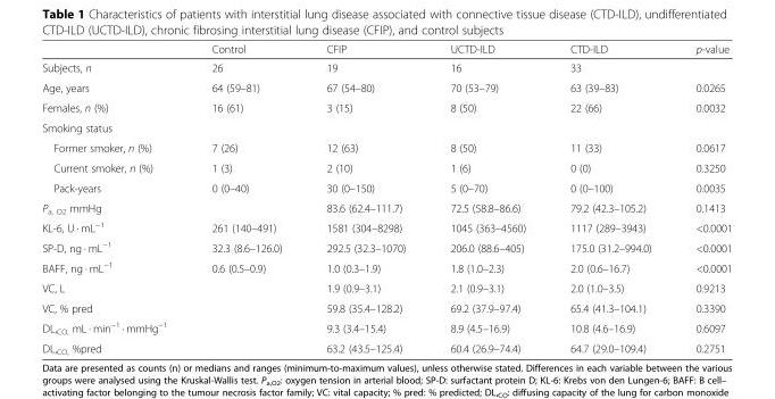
<table><thead><tr><td></td><td>Control</td><td>CFIP</td><td>UCTD-ILD</td><td>CTD-ILD</td><td>p-value</td></tr></thead><tbody><tr><td>Subjects, n</td><td>26</td><td>19</td><td>16</td><td>33</td><td></td></tr><tr><td>Age, years</td><td>64 (59–81)</td><td>67 (54–80)</td><td>70 (53–79)</td><td>63 (39–83)</td><td>0.0265</td></tr><tr><td>Females, n (%)</td><td>16 (61)</td><td>3 (15)</td><td>8 (50)</td><td>22 (66)</td><td>0.0032</td></tr><tr><td colspan="6">Smoking status</td></tr><tr><td>Former smoker, n (%)</td><td>7 (26)</td><td>12 (63)</td><td>8 (50)</td><td>11 (33)</td><td>0.0617</td></tr><tr><td>Current smoker, n (%)</td><td>1 (3)</td><td>2 (10)</td><td>1 (6)</td><td>0 (0)</td><td>0.3250</td></tr><tr><td>Pack-years</td><td>0 (0–40)</td><td>30 (0–150)</td><td>5 (0–70)</td><td>0 (0–100)</td><td>0.0035</td></tr><tr><td>P<sub>a, O2</sub> mmHg</td><td></td><td>83.6 (62.4–111.7)</td><td>72.5 (58.8–86.6)</td><td>79.2 (42.3–105.2)</td><td>0.1413</td></tr><tr><td>KL-6, U · mL<sup>−1</sup></td><td>261 (140–491)</td><td>1581 (304–8298)</td><td>1045 (363–4560)</td><td>1117 (289–3943)</td><td>&lt;0.0001</td></tr><tr><td>SP-D, ng · mL<sup>−1</sup></td><td>32.3 (8.6–126.0)</td><td>292.5 (32.3–1070)</td><td>206.0 (88.6–405)</td><td>175.0 (31.2–994.0)</td><td>&lt;0.0001</td></tr><tr><td>BAFF, ng · mL<sup>−1</sup></td><td>0.6 (0.5–0.9)</td><td>1.0 (0.3–1.9)</td><td>1.8 (1.0–2.3)</td><td>2.0 (0.6–16.7)</td><td>&lt;0.0001</td></tr><tr><td>VC, L</td><td></td><td>1.9 (0.9–3.1)</td><td>2.1 (0.9–3.1)</td><td>2.0 (1.0–3.5)</td><td>0.9213</td></tr><tr><td>VC, % pred</td><td></td><td>59.8 (35.4–128.2)</td><td>69.2 (37.9–97.4)</td><td>65.4 (41.3–104.1)</td><td>0.3390</td></tr><tr><td>DL,<sub>CO,</sub> mL · min<sup>−1</sup> · mmHg<sup>−1</sup></td><td></td><td>9.3 (3.4–15.4)</td><td>8.9 (4.5–16.9)</td><td>10.8 (4.6–16.9)</td><td>0.6097</td></tr><tr><td>DL,<sub>CO,</sub> %pred</td><td></td><td>63.2 (43.5–125.4)</td><td>60.4 (26.9–74.4)</td><td>64.7 (29.0–109.4)</td><td>0.2751</td></tr></tbody></table>